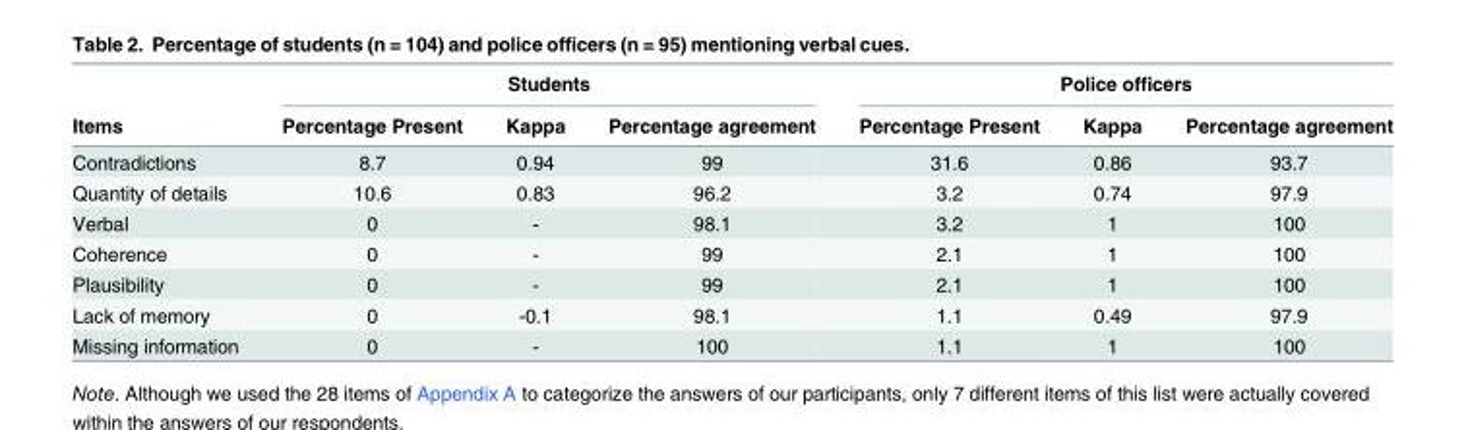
<table><thead><tr><td rowspan="2">Items</td><td colspan="3">Students</td><td colspan="3">Police officers</td></tr><tr><td>Percentage Present</td><td>Kappa</td><td>Percentage agreement</td><td>Percentage Present</td><td>Kappa</td><td>Percentage agreement</td></tr></thead><tbody><tr><td>Contradictions</td><td>8.7</td><td>0.94</td><td>99</td><td>31.6</td><td>0.86</td><td>93.7</td></tr><tr><td>Quantity of details</td><td>10.6</td><td>0.83</td><td>96.2</td><td>3.2</td><td>0.74</td><td>97.9</td></tr><tr><td>Verbal</td><td>0</td><td>-</td><td>98.1</td><td>3.2</td><td>1</td><td>100</td></tr><tr><td>Coherence</td><td>0</td><td>-</td><td>99</td><td>2.1</td><td>1</td><td>100</td></tr><tr><td>Plausibility</td><td>0</td><td>-</td><td>99</td><td>2.1</td><td>1</td><td>100</td></tr><tr><td>Lack of memory</td><td>0</td><td>-0.1</td><td>98.1</td><td>1.1</td><td>0.49</td><td>97.9</td></tr><tr><td>Missing information</td><td>0</td><td>-</td><td>100</td><td>1.1</td><td>1</td><td>100</td></tr></tbody></table>